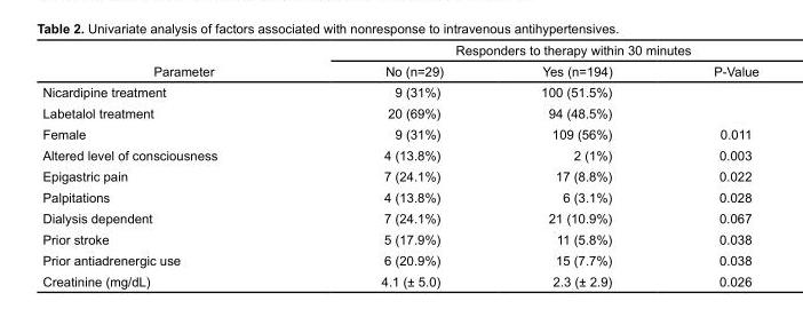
<table><thead><tr><td rowspan="2">Parameter</td><td colspan="3">Responders to therapy within 30 minutes</td></tr><tr><td>No (n=29)</td><td>Yes (n=194)</td><td>P-Value</td></tr></thead><tbody><tr><td>Nicardipine treatment</td><td>9 (31%)</td><td>100 (51.5%)</td><td></td></tr><tr><td>Labetalol treatment</td><td>20 (69%)</td><td>94 (48.5%)</td><td></td></tr><tr><td>Female</td><td>9 (31%)</td><td>109 (56%)</td><td>0.011</td></tr><tr><td>Altered level of consciousness</td><td>4 (13.8%)</td><td>2 (1%)</td><td>0.003</td></tr><tr><td>Epigastric pain</td><td>7 (24.1%)</td><td>17 (8.8%)</td><td>0.022</td></tr><tr><td>Palpitations</td><td>4 (13.8%)</td><td>6 (3.1%)</td><td>0.028</td></tr><tr><td>Dialysis dependent</td><td>7 (24.1%)</td><td>21 (10.9%)</td><td>0.067</td></tr><tr><td>Prior stroke</td><td>5 (17.9%)</td><td>11 (5.8%)</td><td>0.038</td></tr><tr><td>Prior antiadrenergic use</td><td>6 (20.9%)</td><td>15 (7.7%)</td><td>0.038</td></tr><tr><td>Creatinine (mg/dL)</td><td>4.1 (± 5.0)</td><td>2.3 (± 2.9)</td><td>0.026</td></tr></tbody></table>